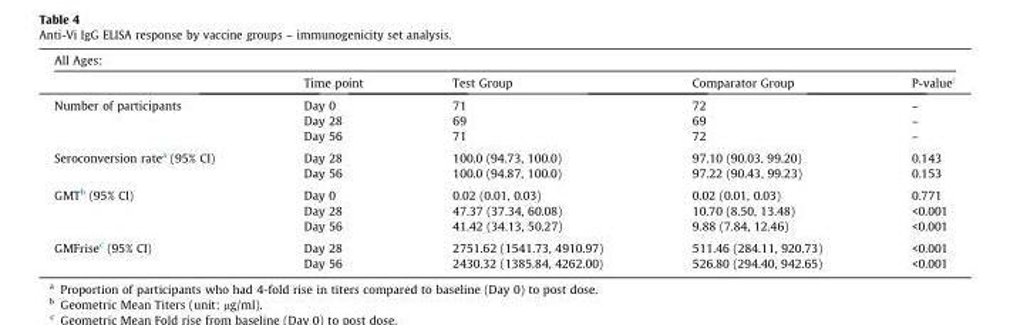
<table><thead><tr><td colspan="5">All Ages:</td></tr><tr><td></td><td>Time point</td><td>Test Group</td><td>Comparator Group</td><td>P-value†</td></tr></thead><tbody><tr><td rowspan="3">Number of participants</td><td>Day 0</td><td>71</td><td>72</td><td>–</td></tr><tr><td>Day 28</td><td>69</td><td>69</td><td>–</td></tr><tr><td>Day 56</td><td>71</td><td>72</td><td>–</td></tr><tr><td rowspan="2">Seroconversion rate<sup>a</sup> (95% CI)</td><td>Day 28</td><td>100.0 (94.73, 100.0)</td><td>97.10 (90.03, 99.20)</td><td>0.143</td></tr><tr><td>Day 56</td><td>100.0 (94.87, 100.0)</td><td>97.22 (90.43, 99.23)</td><td>0.153</td></tr><tr><td rowspan="3">GMT<sup>b</sup> (95% CI)</td><td>Day 0</td><td>0.02 (0.01, 0.03)</td><td>0.02 (0.01, 0.03)</td><td>0.771</td></tr><tr><td>Day 28</td><td>47.37 (37.34, 60.08)</td><td>10.70 (8.50, 13.48)</td><td>&lt;0.001</td></tr><tr><td>Day 56</td><td>41.42 (34.13, 50.27)</td><td>9.88 (7.84, 12.46)</td><td>&lt;0.001</td></tr><tr><td rowspan="2">GMFrise<sup>c</sup> (95% CI)</td><td>Day 28</td><td>2751.62 (1541.73, 4910.97)</td><td>511.46 (284.11, 920.73)</td><td>&lt;0.001</td></tr><tr><td>Day 56</td><td>2430.32 (1385.84, 4262.00)</td><td>526.80 (294.40, 942.65)</td><td>&lt;0.001</td></tr></tbody></table>